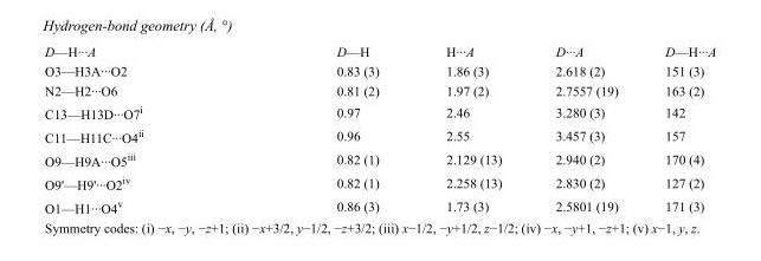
<table><tbody><tr><td>D—H···A</td><td>D—H</td><td>H···A</td><td>D···A</td><td>D—H···A</td></tr><tr><td>O3—H3A···O2</td><td>0.83 (3)</td><td>1.86 (3)</td><td>2.618 (2)</td><td>151 (3)</td></tr><tr><td>N2—H2···O6</td><td>0.81 (2)</td><td>1.97 (2)</td><td>2.7557 (19)</td><td>163 (2)</td></tr><tr><td>C13—H13D···O7<sup>i</sup></td><td>0.97</td><td>2.46</td><td>3.280 (3)</td><td>142</td></tr><tr><td>C11—H11C···O4<sup>ii</sup></td><td>0.96</td><td>2.55</td><td>3.457 (3)</td><td>157</td></tr><tr><td>O9—H9A···O5<sup>iii</sup></td><td>0.82 (1)</td><td>2.129 (13)</td><td>2.940 (2)</td><td>170 (4)</td></tr><tr><td>O9&#x27;—H9&#x27;···O2<sup>iv</sup></td><td>0.82 (1)</td><td>2.258 (13)</td><td>2.830 (2)</td><td>127 (2)</td></tr><tr><td>O1—H1···O4<sup>v</sup></td><td>0.86 (3)</td><td>1.73 (3)</td><td>2.5801 (19)</td><td>171 (3)</td></tr></tbody></table>